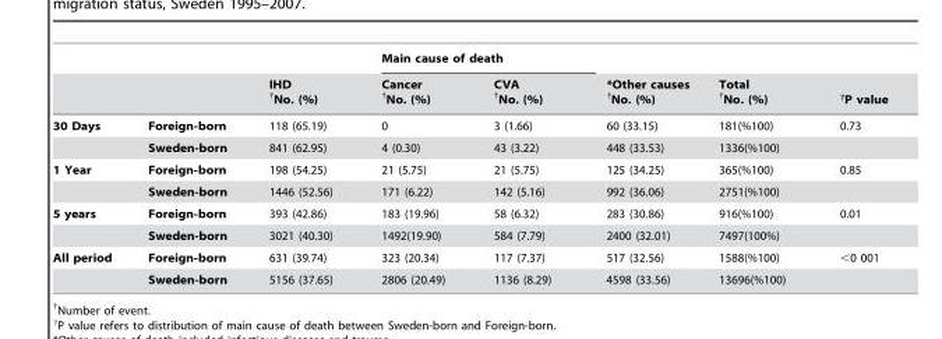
<table><thead><tr><td rowspan="2"></td><td rowspan="2"></td><td rowspan="2">IHD †No. (%)</td><td colspan="2">Main cause of death</td><td rowspan="2">*Other causes †No. (%)</td><td rowspan="2">Total †No. (%)</td><td rowspan="2">γP value</td></tr><tr><td>Cancer †No. (%)</td><td>CVA †No. (%)</td></tr></thead><tbody><tr><td rowspan="2">30 Days</td><td>Foreign-born</td><td>118 (65.19)</td><td>0</td><td>3 (1.66)</td><td>60 (33.15)</td><td>181(%100)</td><td>0.73</td></tr><tr><td>Sweden-born</td><td>841 (62.95)</td><td>4 (0.30)</td><td>43 (3.22)</td><td>448 (33.53)</td><td>1336(%100)</td><td></td></tr><tr><td rowspan="2">1 Year</td><td>Foreign-born</td><td>198 (54.25)</td><td>21 (5.75)</td><td>21 (5.75)</td><td>125 (34.25)</td><td>365(%100)</td><td>0.85</td></tr><tr><td>Sweden-born</td><td>1446 (52.56)</td><td>171 (6.22)</td><td>142 (5.16)</td><td>992 (36.06)</td><td>2751(%100)</td><td></td></tr><tr><td rowspan="2">5 years</td><td>Foreign-born</td><td>393 (42.86)</td><td>183 (19.96)</td><td>58 (6.32)</td><td>283 (30.86)</td><td>916(%100)</td><td>0.01</td></tr><tr><td>Sweden-born</td><td>3021 (40.30)</td><td>1492(19.90)</td><td>584 (7.79)</td><td>2400 (32.01)</td><td>7497(100%)</td><td></td></tr><tr><td rowspan="2">All period</td><td>Foreign-born</td><td>631 (39.74)</td><td>323 (20.34)</td><td>117 (7.37)</td><td>517 (32.56)</td><td>1588(%100)</td><td>&lt;0 001</td></tr><tr><td>Sweden-born</td><td>5156 (37.65)</td><td>2806 (20.49)</td><td>1136 (8.29)</td><td>4598 (33.56)</td><td>13696(%100)</td><td></td></tr></tbody></table>